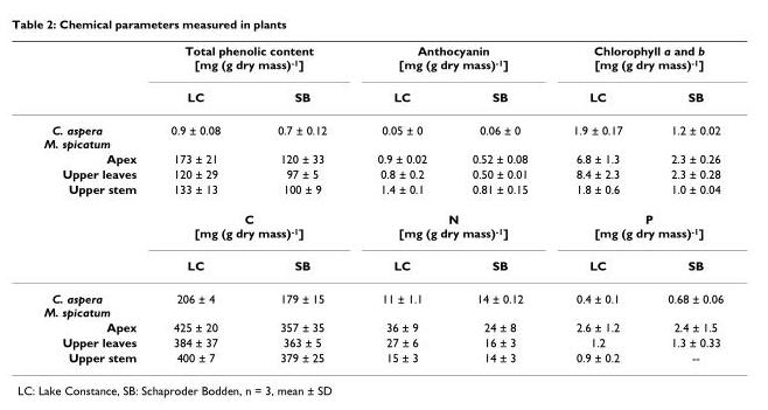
<table><thead><tr><td rowspan="2"></td><td colspan="2">Total phenolic content [mg (g dry mass)<sup>-1</sup>]</td><td colspan="2">Anthocyanin [mg (g dry mass)<sup>-1</sup>]</td><td colspan="2">Chlorophyll a and b [mg (g dry mass)<sup>-1</sup>]</td></tr><tr><td>LC</td><td>SB</td><td>LC</td><td>SB</td><td>LC</td><td>SB</td></tr></thead><tbody><tr><td>C. aspera M. spicatum</td><td>0.9 ± 0.08</td><td>0.7 ± 0.12</td><td>0.05 ± 0</td><td>0.06 ± 0</td><td>1.9 ± 0.17</td><td>1.2 ± 0.02</td></tr><tr><td>Apex</td><td>173 ± 21</td><td>120 ± 33</td><td>0.9 ± 0.02</td><td>0.52 ± 0.08</td><td>6.8 ± 1.3</td><td>2.3 ± 0.26</td></tr><tr><td>Upper leaves</td><td>120 ± 29</td><td>97 ± 5</td><td>0.8 ± 0.2</td><td>0.50 ± 0.01</td><td>8.4 ± 2.3</td><td>2.3 ± 0.28</td></tr><tr><td rowspan="3">Upper stem</td><td>133 ± 13</td><td>100 ± 9</td><td>1.4 ± 0.1</td><td>0.81 ± 0.15</td><td>1.8 ± 0.6</td><td>1.0 ± 0.04</td></tr><tr><td colspan="2">C [mg (g dry mass)<sup>-1</sup>]</td><td colspan="2">N [mg (g dry mass)<sup>-1</sup>]</td><td colspan="2">P [mg (g dry mass)<sup>-1</sup>]</td></tr><tr><td>LC</td><td>SB</td><td>LC</td><td>SB</td><td>LC</td><td>SB</td></tr><tr><td>C. aspera M. spicatum</td><td>206 ± 4</td><td>179 ± 15</td><td>11 ± 1.1</td><td>14 ± 0.12</td><td>0.4 ± 0.1</td><td>0.68 ± 0.06</td></tr><tr><td>Apex</td><td>425 ± 20</td><td>357 ± 35</td><td>36 ± 9</td><td>24 ± 8</td><td>2.6 ± 1.2</td><td>2.4 ± 1.5</td></tr><tr><td>Upper leaves</td><td>384 ± 37</td><td>363 ± 5</td><td>27 ± 6</td><td>16 ± 3</td><td>1.2</td><td>1.3 ± 0.33</td></tr><tr><td>Upper stem</td><td>400 ± 7</td><td>379 ± 25</td><td>15 ± 3</td><td>14 ± 3</td><td>0.9 ± 0.2</td><td>--</td></tr></tbody></table>